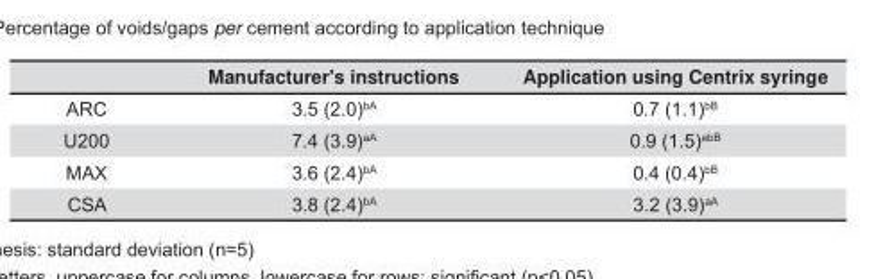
<table><thead><tr><td></td><td>Manufacturer&#x27;s instructions</td><td>Application using Centrix syringe</td></tr></thead><tbody><tr><td>ARC</td><td>3.5 (2.0)<sup>bA</sup></td><td>0.7 (1.1)<sup>bB</sup></td></tr><tr><td>U200</td><td>7.4 (3.9)<sup>aA</sup></td><td>0.9 (1.5)<sup>abB</sup></td></tr><tr><td>MAX</td><td>3.6 (2.4)<sup>bA</sup></td><td>0.4 (0.4)<sup>bB</sup></td></tr><tr><td>CSA</td><td>3.8 (2.4)<sup>bA</sup></td><td>3.2 (3.9)<sup>aA</sup></td></tr></tbody></table>